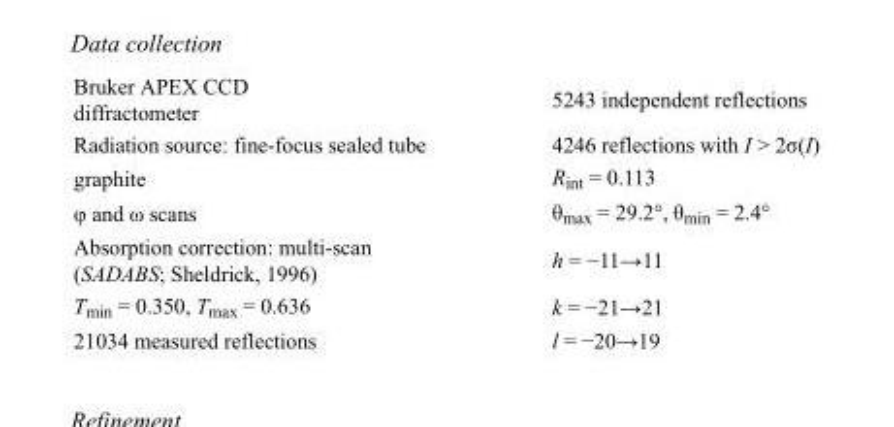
<table><tbody><tr><td>Bruker APEX CCD diffractometer</td><td>5243 independent reflections</td></tr><tr><td>Radiation source: fine-focus sealed tube</td><td>4246 reflections with I &gt; 2σ(I)</td></tr><tr><td>graphite</td><td>R<sub>int</sub> = 0.113</td></tr><tr><td>φ and ω scans</td><td>θ<sub>max</sub> = 29.2°, θ<sub>min</sub> = 2.4°</td></tr><tr><td>Absorption correction: multi-scan (SADABS; Sheldrick, 1996)</td><td>h = −11→11</td></tr><tr><td>T<sub>min</sub> = 0.350, T<sub>max</sub> = 0.636</td><td>k = −21→21</td></tr><tr><td>21034 measured reflections</td><td>l = −20→19</td></tr></tbody></table>